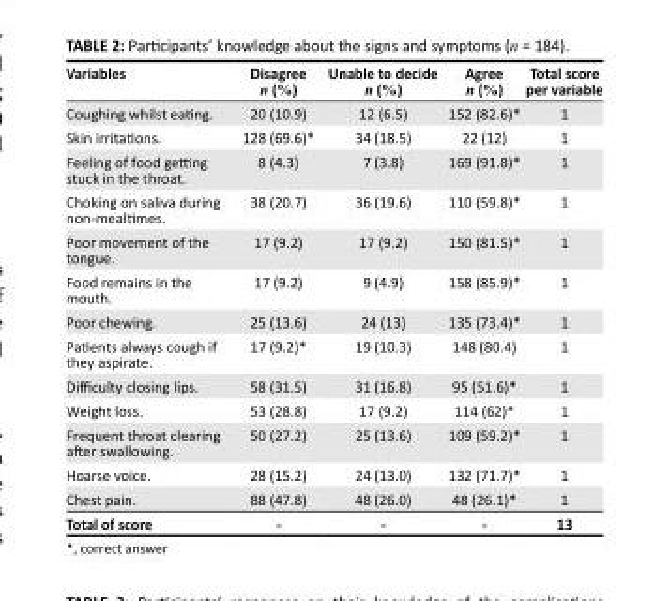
<table><thead><tr><td>Variables</td><td>Disagree n (%)</td><td>Unable to decide n (%)</td><td>Agree n (%)</td><td>Total score per variable</td></tr></thead><tbody><tr><td>Coughing whilst eating.</td><td>20 (10.9)</td><td>12 (6.5)</td><td>152 (82.6)*</td><td>1</td></tr><tr><td>Skin irritations.</td><td>128 (69.6)*</td><td>34 (18.5)</td><td>22 (12)</td><td>1</td></tr><tr><td>Feeling of food getting stuck in the throat.</td><td>8 (4.3)</td><td>7 (3.8)</td><td>169 (91.8)*</td><td>1</td></tr><tr><td>Choking on saliva during non-mealtimes.</td><td>38 (20.7)</td><td>36 (19.6)</td><td>110 (59.8)*</td><td>1</td></tr><tr><td>Poor movement of the tongue.</td><td>17 (9.2)</td><td>17 (9.2)</td><td>150 (81.5)*</td><td>1</td></tr><tr><td>Food remains in the mouth.</td><td>17 (9.2)</td><td>9 (4.9)</td><td>158 (85.9)*</td><td>1</td></tr><tr><td>Poor chewing.</td><td>25 (13.6)</td><td>24 (13)</td><td>135 (73.4)*</td><td>1</td></tr><tr><td>Patients always cough if they aspirate.</td><td>17 (9.2)*</td><td>19 (10.3)</td><td>148 (80.4)</td><td>1</td></tr><tr><td>Difficulty closing lips.</td><td>58 (31.5)</td><td>31 (16.8)</td><td>95 (51.6)*</td><td>1</td></tr><tr><td>Weight loss.</td><td>53 (28.8)</td><td>17 (9.2)</td><td>114 (62)*</td><td>1</td></tr><tr><td>Frequent throat clearing after swallowing.</td><td>50 (27.2)</td><td>25 (13.6)</td><td>109 (59.2)*</td><td>1</td></tr><tr><td>Hoarse voice.</td><td>28 (15.2)</td><td>24 (13.0)</td><td>132 (71.7)*</td><td>1</td></tr><tr><td>Chest pain.</td><td>88 (47.8)</td><td>48 (26.0)</td><td>48 (26.1)*</td><td>1</td></tr><tr><td>Total of score</td><td>-</td><td>-</td><td>-</td><td>13</td></tr></tbody></table>